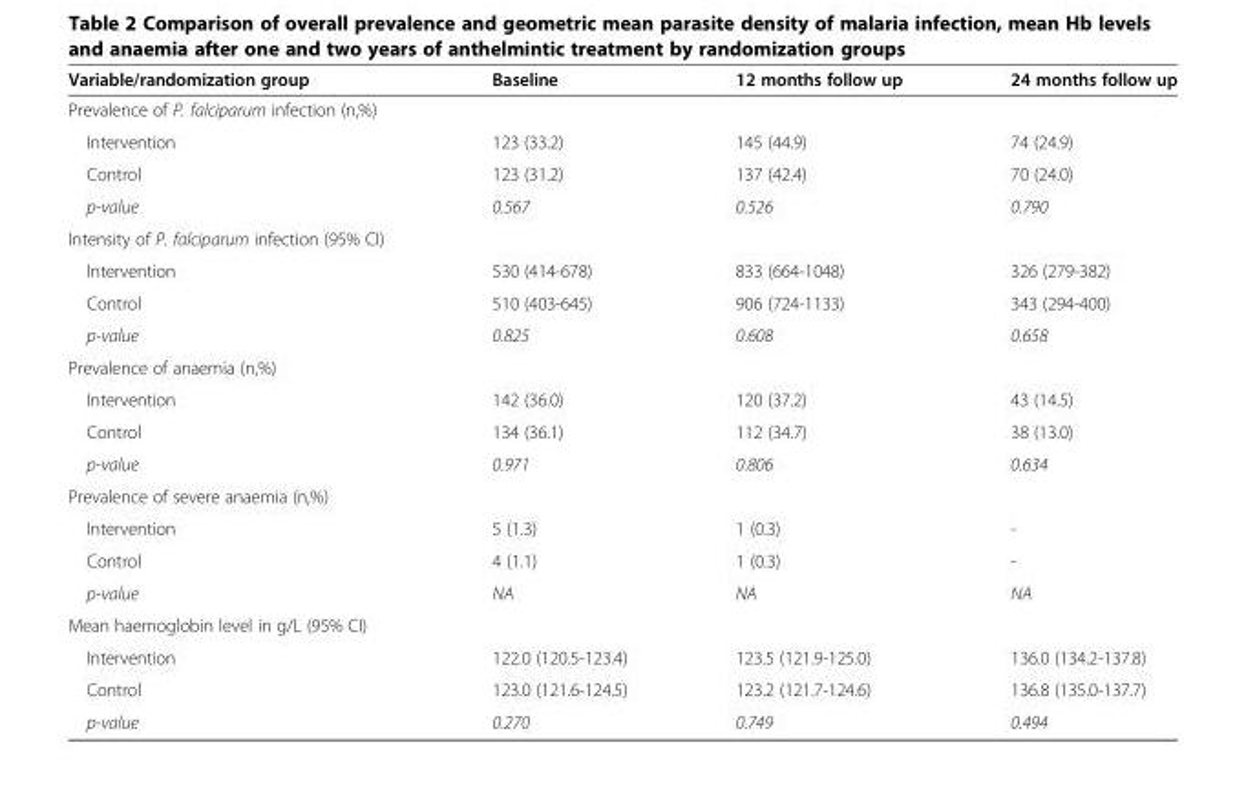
<table><thead><tr><td>Variable/randomization group</td><td>Baseline</td><td>12 months follow up</td><td>24 months follow up</td></tr></thead><tbody><tr><td colspan="4">Prevalence of P. falciparum infection (n,%)</td></tr><tr><td>Intervention</td><td>123 (33.2)</td><td>145 (44.9)</td><td>74 (24.9)</td></tr><tr><td>Control</td><td>123 (31.2)</td><td>137 (42.4)</td><td>70 (24.0)</td></tr><tr><td>p-value</td><td>0.567</td><td>0.526</td><td>0.790</td></tr><tr><td colspan="4">Intensity of P. falciparum infection (95% CI)</td></tr><tr><td>Intervention</td><td>530 (414-678)</td><td>833 (664-1048)</td><td>326 (279-382)</td></tr><tr><td>Control</td><td>510 (403-645)</td><td>906 (724-1133)</td><td>343 (294-400)</td></tr><tr><td>p-value</td><td>0.825</td><td>0.608</td><td>0.658</td></tr><tr><td colspan="4">Prevalence of anaemia (n,%)</td></tr><tr><td>Intervention</td><td>142 (36.0)</td><td>120 (37.2)</td><td>43 (14.5)</td></tr><tr><td>Control</td><td>134 (36.1)</td><td>112 (34.7)</td><td>38 (13.0)</td></tr><tr><td>p-value</td><td>0.971</td><td>0.806</td><td>0.634</td></tr><tr><td colspan="4">Prevalence of severe anaemia (n,%)</td></tr><tr><td>Intervention</td><td>5 (1.3)</td><td>1 (0.3)</td><td>-</td></tr><tr><td>Control</td><td>4 (1.1)</td><td>1 (0.3)</td><td>-</td></tr><tr><td>p-value</td><td>NA</td><td>NA</td><td>NA</td></tr><tr><td colspan="4">Mean haemoglobin level in g/L (95% CI)</td></tr><tr><td>Intervention</td><td>122.0 (120.5-123.4)</td><td>123.5 (121.9-125.0)</td><td>136.0 (134.2-137.8)</td></tr><tr><td>Control</td><td>123.0 (121.6-124.5)</td><td>123.2 (121.7-124.6)</td><td>136.8 (135.0-137.7)</td></tr><tr><td>p-value</td><td>0.270</td><td>0.749</td><td>0.494</td></tr></tbody></table>